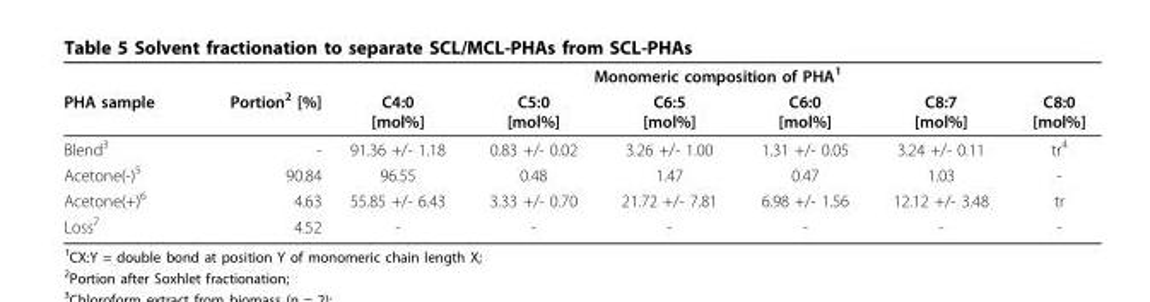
<table><thead><tr><td rowspan="2">PHA sample</td><td rowspan="2">Portion<sup>2</sup> [%]</td><td colspan="6">Monomeric composition of PHA<sup>1</sup></td></tr><tr><td>C4:0 [mol%]</td><td>C5:0 [mol%]</td><td>C6:5 [mol%]</td><td>C6:0 [mol%]</td><td>C8:7 [mol%]</td><td>C8:0 [mol%]</td></tr></thead><tbody><tr><td>Blend<sup>3</sup></td><td>-</td><td>91.36 +/- 1.18</td><td>0.83 +/- 0.02</td><td>3.26 +/- 1.00</td><td>1.31 +/- 0.05</td><td>3.24 +/- 0.11</td><td>tr4</td></tr><tr><td>Acetone(-)<sup>5</sup></td><td>90.84</td><td>96.55</td><td>0.48</td><td>1.47</td><td>0.47</td><td>1.03</td><td>-</td></tr><tr><td>Acetone(+)<sup>6</sup></td><td>4.63</td><td>55.85 +/- 6.43</td><td>3.33 +/- 0.70</td><td>21.72 +/- 7.81</td><td>6.98 +/- 1.56</td><td>12.12 +/- 3.48</td><td>tr</td></tr><tr><td>Loss<sup>7</sup></td><td>4.52</td><td>-</td><td>-</td><td>-</td><td>-</td><td>-</td><td>-</td></tr></tbody></table>